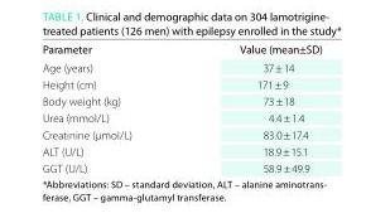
<table><thead><tr><td>Parameter</td><td>Value (mean±SD)</td></tr></thead><tbody><tr><td>Age (years)</td><td>37 ± 14</td></tr><tr><td>Height (cm)</td><td>171 ± 9</td></tr><tr><td>Body weight (kg)</td><td>73 ± 18</td></tr><tr><td>Urea (mmol/L)</td><td>4.4 ± 1.4</td></tr><tr><td>Creatinine (μmol/L)</td><td>83.0 ± 17.4</td></tr><tr><td>ALT (U/L)</td><td>18.9 ± 15.1</td></tr><tr><td>GGT (U/L)</td><td>58.9 ± 49.9</td></tr></tbody></table>